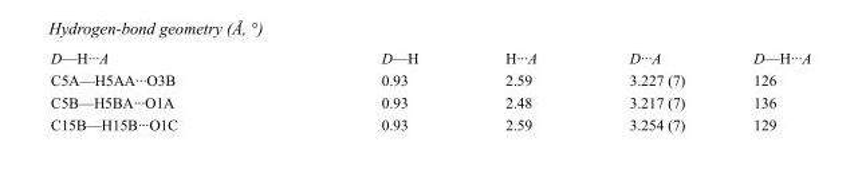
<table><tbody><tr><td>D—H···A</td><td>D—H</td><td>H···A</td><td>D···A</td><td>D—H···A</td></tr><tr><td>C5A—H5AA···O3B</td><td>0.93</td><td>2.59</td><td>3.227 (7)</td><td>126</td></tr><tr><td>C5B—H5BA···O1A</td><td>0.93</td><td>2.48</td><td>3.217 (7)</td><td>136</td></tr><tr><td>C15B—H15B···O1C</td><td>0.93</td><td>2.59</td><td>3.254 (7)</td><td>129</td></tr></tbody></table>